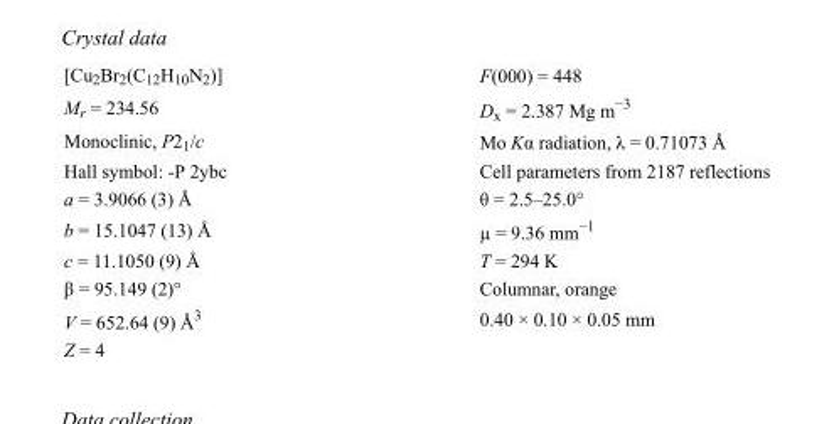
<table><tbody><tr><td>[Cu<sub>2</sub>Br<sub>2</sub>(C<sub>12</sub>H<sub>10</sub>N<sub>2</sub>)]</td><td>F(000) = 448</td></tr><tr><td>M<sub>r</sub> = 234.56</td><td>D<sub>x</sub> = 2.387 Mg m<sup>−3</sup></td></tr><tr><td>Monoclinic, P2<sub>1</sub>/c</td><td>Mo Kα radiation, λ = 0.71073 Å</td></tr><tr><td>Hall symbol: -P 2ybc</td><td>Cell parameters from 2187 reflections</td></tr><tr><td>a = 3.9066 (3) Å</td><td>θ = 2.5–25.0°</td></tr><tr><td>b = 15.1047 (13) Å</td><td>µ = 9.36 mm<sup>−1</sup></td></tr><tr><td>c = 11.1050 (9) Å</td><td>T = 294 K</td></tr><tr><td>β = 95.149 (2)°</td><td>Columnar, orange</td></tr><tr><td>V = 652.64 (9) Å<sup>3</sup></td><td>0.40 × 0.10 × 0.05 mm</td></tr><tr><td>Z = 4</td><td></td></tr></tbody></table>